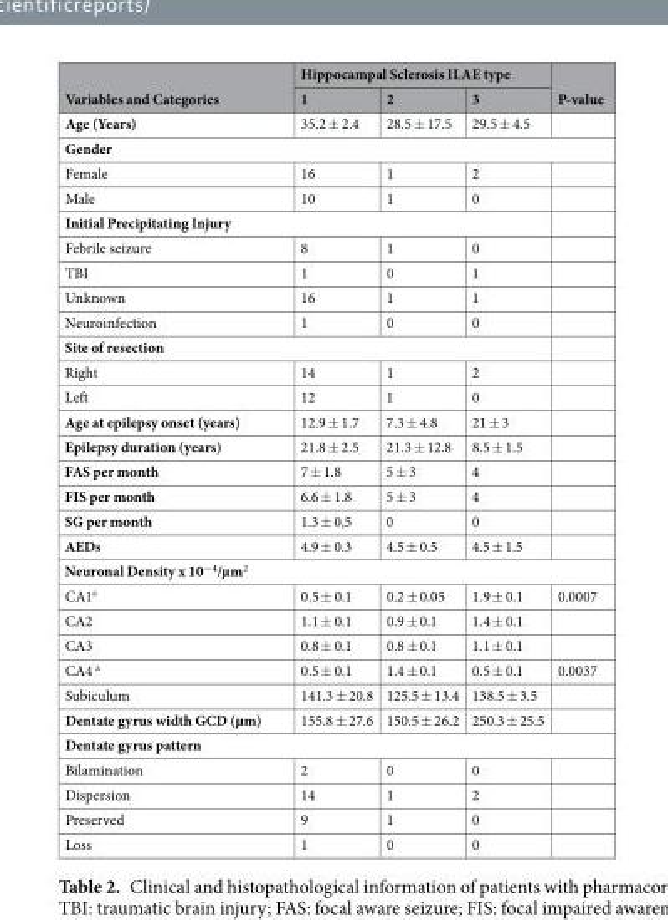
<table><thead><tr><td rowspan="2">Variables and Categories</td><td colspan="3">Hippocampal Sclerosis ILAE type</td><td rowspan="2">P-value</td></tr><tr><td>1</td><td>2</td><td>3</td></tr></thead><tbody><tr><td>Age (Years)</td><td>35.2 ± 2.4</td><td>28.5 ± 17.5</td><td>29.5 ± 4.5</td><td></td></tr><tr><td colspan="5">Gender</td></tr><tr><td>Female</td><td>16</td><td>1</td><td>2</td><td></td></tr><tr><td>Male</td><td>10</td><td>1</td><td>0</td><td></td></tr><tr><td colspan="5">Initial Precipitating Injury</td></tr><tr><td>Febrile seizure</td><td>8</td><td>1</td><td>0</td><td></td></tr><tr><td>TBI</td><td>1</td><td>0</td><td>1</td><td></td></tr><tr><td>Unknown</td><td>16</td><td>1</td><td>1</td><td></td></tr><tr><td>Neuroinfection</td><td>1</td><td>0</td><td>0</td><td></td></tr><tr><td colspan="5">Site of resection</td></tr><tr><td>Right</td><td>14</td><td>1</td><td>2</td><td></td></tr><tr><td>Left</td><td>12</td><td>1</td><td>0</td><td></td></tr><tr><td>Age at epilepsy onset (years)</td><td>12.9 ± 1.7</td><td>7.3 ± 4.8</td><td>21 ± 3</td><td></td></tr><tr><td>Epilepsy duration (years)</td><td>21.8 ± 2.5</td><td>21.3 ± 12.8</td><td>8.5 ± 1.5</td><td></td></tr><tr><td>FAS per month</td><td>7 ± 1.8</td><td>5 ± 3</td><td>4</td><td></td></tr><tr><td>FIS per month</td><td>6.6 ± 1.8</td><td>5 ± 3</td><td>4</td><td></td></tr><tr><td>SG per month</td><td>1.3 ± 0,5</td><td>0</td><td>0</td><td></td></tr><tr><td>AEDs</td><td>4.9 ± 0.3</td><td>4.5 ± 0.5</td><td>4.5 ± 1.5</td><td></td></tr><tr><td colspan="5">Neuronal Density x 10<sup>−4</sup>/µm<sup>2</sup></td></tr><tr><td>CA1<sup>a</sup></td><td>0.5 ± 0.1</td><td>0.2 ± 0.05</td><td>1.9 ± 0.1</td><td>0.0007</td></tr><tr><td>CA2</td><td>1.1 ± 0.1</td><td>0.9 ± 0.1</td><td>1.4 ± 0.1</td><td></td></tr><tr><td>CA3</td><td>0.8 ± 0.1</td><td>0.8 ± 0.1</td><td>1.1 ± 0.1</td><td></td></tr><tr><td>CA4 <sup>a</sup></td><td>0.5 ± 0.1</td><td>1.4 ± 0.1</td><td>0.5 ± 0.1</td><td>0.0037</td></tr><tr><td>Subiculum</td><td>141.3 ± 20.8</td><td>125.5 ± 13.4</td><td>138.5 ± 3.5</td><td></td></tr><tr><td>Dentate gyrus width GCD (µm)</td><td>155.8 ± 27.6</td><td>150.5 ± 26.2</td><td>250.3 ± 25.5</td><td></td></tr><tr><td colspan="5">Dentate gyrus pattern</td></tr><tr><td>Bilamination</td><td>2</td><td>0</td><td>0</td><td></td></tr><tr><td>Dispersion</td><td>14</td><td>1</td><td>2</td><td></td></tr><tr><td>Preserved</td><td>9</td><td>1</td><td>0</td><td></td></tr><tr><td>Loss</td><td>1</td><td>0</td><td>0</td><td></td></tr></tbody></table>